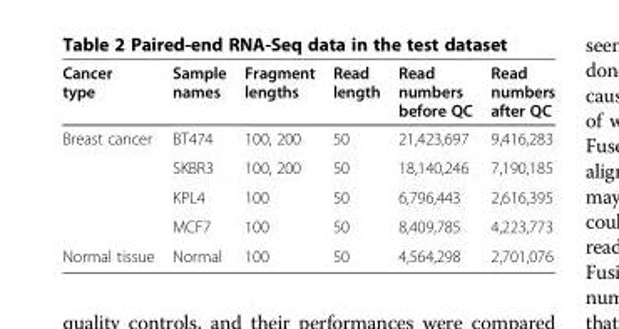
<table><thead><tr><td>Cancer type</td><td>Sample names</td><td>Fragment lengths</td><td>Read length</td><td>Read numbers before QC</td><td>Read numbers after QC</td></tr></thead><tbody><tr><td rowspan="4">Breast cancer</td><td>BT474</td><td>100, 200</td><td>50</td><td>21,423,697</td><td>9,416,283</td></tr><tr><td>SKBR3</td><td>100, 200</td><td>50</td><td>18,140,246</td><td>7,190,185</td></tr><tr><td>KPL4</td><td>100</td><td>50</td><td>6,796,443</td><td>2,616,395</td></tr><tr><td>MCF7</td><td>100</td><td>50</td><td>8,409,785</td><td>4,223,773</td></tr><tr><td>Normal tissue</td><td>Normal</td><td>100</td><td>50</td><td>4,564,298</td><td>2,701,076</td></tr></tbody></table>